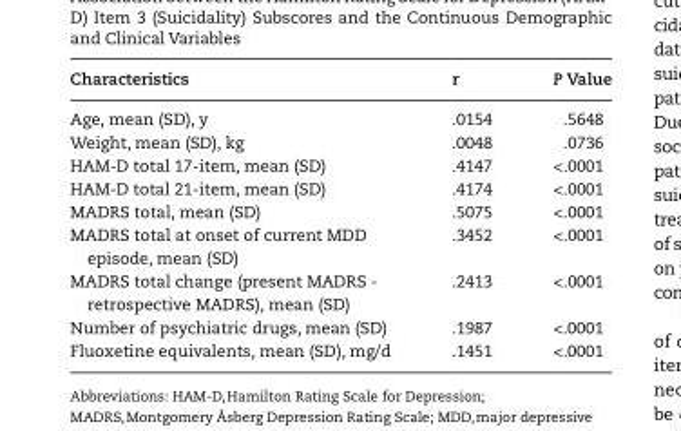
<table><thead><tr><td>Characteristics</td><td>r</td><td>P Value</td></tr></thead><tbody><tr><td>Age, mean (SD), y</td><td>.0154</td><td>.5648</td></tr><tr><td>Weight, mean (SD), kg</td><td>.0048</td><td>.0736</td></tr><tr><td>HAM-D total 17-item, mean (SD)</td><td>.4147</td><td>&lt;.0001</td></tr><tr><td>HAM-D total 21-item, mean (SD)</td><td>.4174</td><td>&lt;.0001</td></tr><tr><td>MADRS total, mean (SD)</td><td>.5075</td><td>&lt;.0001</td></tr><tr><td>MADRS total at onset of current MDD episode, mean (SD)</td><td>.3452</td><td>&lt;.0001</td></tr><tr><td>MADRS total change (present MADRS - retrospective MADRS), mean (SD)</td><td>.2413</td><td>&lt;.0001</td></tr><tr><td>Number of psychiatric drugs, mean (SD)</td><td>.1987</td><td>&lt;.0001</td></tr><tr><td>Fluoxetine equivalents, mean (SD), mg/d</td><td>.1451</td><td>&lt;.0001</td></tr></tbody></table>